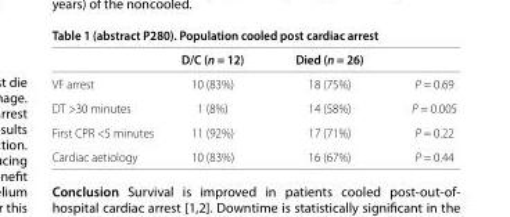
<table><thead><tr><td></td><td>D/C (n = 12)</td><td>Died (n = 26)</td><td></td></tr></thead><tbody><tr><td>VF arrest</td><td>10 (83%)</td><td>18 (75%)</td><td>P = 0.69</td></tr><tr><td>DT &gt;30 minutes</td><td>1 (8%)</td><td>14 (58%)</td><td>P = 0.005</td></tr><tr><td>First CPR &lt;5 minutes</td><td>11 (92%)</td><td>17 (71%)</td><td>P = 0.22</td></tr><tr><td>Cardiac aetiology</td><td>10 (83%)</td><td>16 (67%)</td><td>P = 0.44</td></tr></tbody></table>